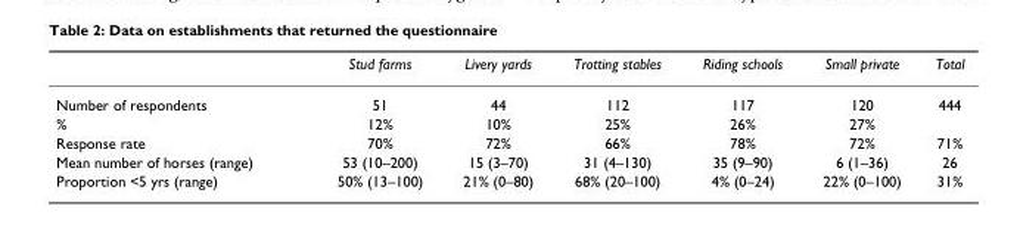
<table><thead><tr><td></td><td>Stud farms</td><td>Livery yards</td><td>Trotting stables</td><td>Riding schools</td><td>Small private</td><td>Total</td></tr></thead><tbody><tr><td>Number of respondents</td><td>51</td><td>44</td><td>112</td><td>117</td><td>120</td><td>444</td></tr><tr><td>%</td><td>12%</td><td>10%</td><td>25%</td><td>26%</td><td>27%</td><td></td></tr><tr><td>Response rate</td><td>70%</td><td>72%</td><td>66%</td><td>78%</td><td>72%</td><td>71%</td></tr><tr><td>Mean number of horses (range)</td><td>53 (10–200)</td><td>15 (3–70)</td><td>31 (4–130)</td><td>35 (9–90)</td><td>6 (1–36)</td><td>26</td></tr><tr><td>Proportion &lt;5 yrs (range)</td><td>50% (13–100)</td><td>21% (0–80)</td><td>68% (20–100)</td><td>4% (0–24)</td><td>22% (0–100)</td><td>31%</td></tr></tbody></table>